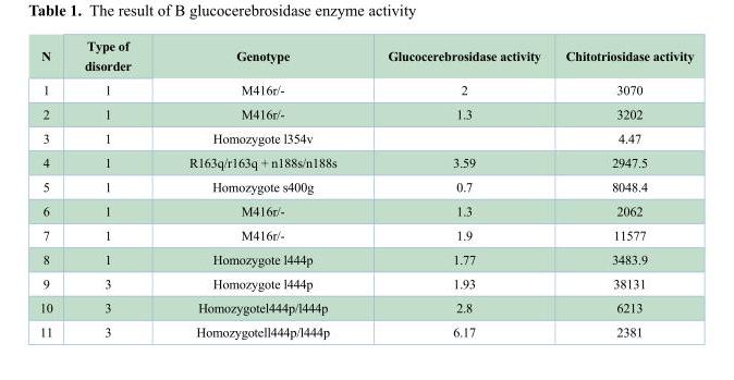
<table><thead><tr><td>N</td><td>Type of disorder</td><td>Genotype</td><td>Glucocerebrosidase activity</td><td>Chitotriosidase activity</td></tr></thead><tbody><tr><td>1</td><td>1</td><td>M416r/-</td><td>2</td><td>3070</td></tr><tr><td>2</td><td>1</td><td>M416r/-</td><td>1.3</td><td>3202</td></tr><tr><td>3</td><td>1</td><td>Homozygote l354v</td><td></td><td>4.47</td></tr><tr><td>4</td><td>1</td><td>R163q/r163q + n188s/n188s</td><td>3.59</td><td>2947.5</td></tr><tr><td>5</td><td>1</td><td>Homozygote s400g</td><td>0.7</td><td>8048.4</td></tr><tr><td>6</td><td>1</td><td>M416r/-</td><td>1.3</td><td>2062</td></tr><tr><td>7</td><td>1</td><td>M416r/-</td><td>1.9</td><td>11577</td></tr><tr><td>8</td><td>1</td><td>Homozygote l444p</td><td>1.77</td><td>3483.9</td></tr><tr><td>9</td><td>3</td><td>Homozygote l444p</td><td>1.93</td><td>38131</td></tr><tr><td>10</td><td>3</td><td>Homozygotel444p/l444p</td><td>2.8</td><td>6213</td></tr><tr><td>11</td><td>3</td><td>Homozygotell444p/l444p</td><td>6.17</td><td>2381</td></tr></tbody></table>